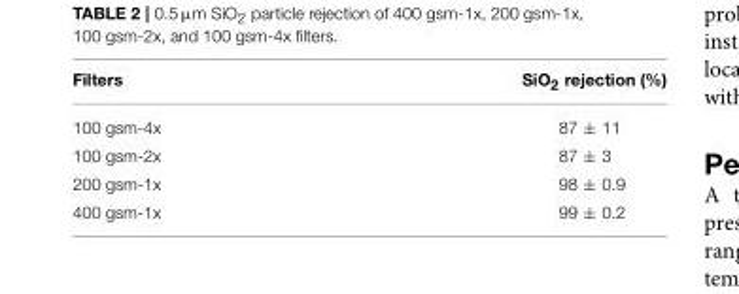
<table><thead><tr><td>Filters</td><td>SiO<sub>2</sub> rejection (%)</td></tr></thead><tbody><tr><td>100 gsm-4x</td><td>87 ± 11</td></tr><tr><td>100 gsm-2x</td><td>87 ± 3</td></tr><tr><td>200 gsm-1x</td><td>98 ± 0.9</td></tr><tr><td>400 gsm-1x</td><td>99 ± 0.2</td></tr></tbody></table>